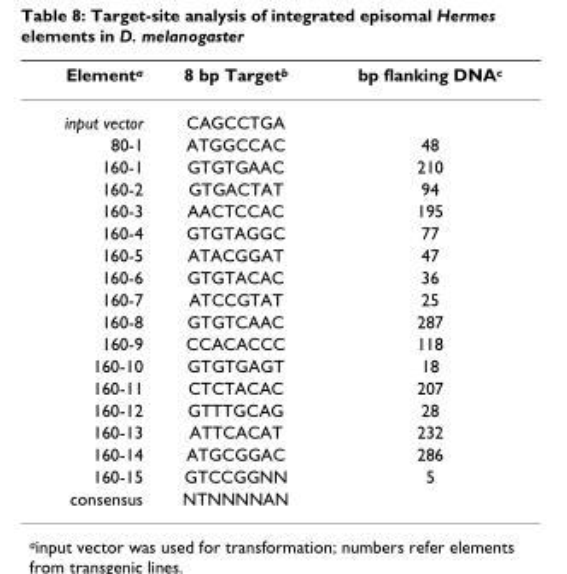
<table><thead><tr><td>Element<sup>a</sup></td><td>8 bp Target<sup>b</sup></td><td>bp flanking DNA<sup>c</sup></td></tr></thead><tbody><tr><td>input vector</td><td>CAGCCTGA</td><td></td></tr><tr><td>80-1</td><td>ATGGCCAC</td><td>48</td></tr><tr><td>160-1</td><td>GTGTGAAC</td><td>210</td></tr><tr><td>160-2</td><td>GTGACTAT</td><td>94</td></tr><tr><td>160-3</td><td>AACTCCAC</td><td>195</td></tr><tr><td>160-4</td><td>GTGTAGGC</td><td>77</td></tr><tr><td>160-5</td><td>ATACGGAT</td><td>47</td></tr><tr><td>160-6</td><td>GTGTACAC</td><td>36</td></tr><tr><td>160-7</td><td>ATCCGTAT</td><td>25</td></tr><tr><td>160-8</td><td>GTGTCAAC</td><td>287</td></tr><tr><td>160-9</td><td>CCACACCC</td><td>118</td></tr><tr><td>160-10</td><td>GTGTGAGT</td><td>18</td></tr><tr><td>160-11</td><td>CTCTACAC</td><td>207</td></tr><tr><td>160-12</td><td>GTTTGCAG</td><td>28</td></tr><tr><td>160-13</td><td>ATTCACAT</td><td>232</td></tr><tr><td>160-14</td><td>ATGCGGAC</td><td>286</td></tr><tr><td>160-15</td><td>GTCCGGNN</td><td>5</td></tr><tr><td>consensus</td><td>NTNNNNAN</td><td></td></tr></tbody></table>